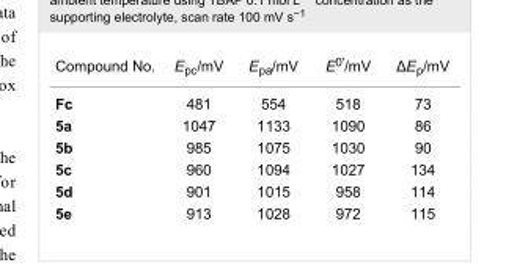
<table><tbody><tr><td>Compound No.</td><td>E<sub>pc</sub>/mV</td><td>E<sub>pa</sub>/mV</td><td>E<sup>0′</sup>/mV</td><td>ΔE<sub>p</sub>/mV</td></tr><tr><td>Fc</td><td>481</td><td>554</td><td>518</td><td>73</td></tr><tr><td>5a</td><td>1047</td><td>1133</td><td>1090</td><td>86</td></tr><tr><td>5b</td><td>985</td><td>1075</td><td>1030</td><td>90</td></tr><tr><td>5c</td><td>960</td><td>1094</td><td>1027</td><td>134</td></tr><tr><td>5d</td><td>901</td><td>1015</td><td>958</td><td>114</td></tr><tr><td>5e</td><td>913</td><td>1028</td><td>972</td><td>115</td></tr></tbody></table>